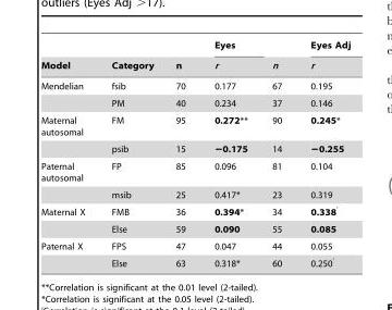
<table><thead><tr><td rowspan="2">Model</td><td rowspan="2">Category</td><td rowspan="2">n</td><td rowspan="2">Eyes r</td><td rowspan="2">n</td><td rowspan="2">Eyes Adj r</td></tr><tr></tr></thead><tbody><tr><td rowspan="2">Mendelian</td><td>fsib</td><td>70</td><td>0.177</td><td>67</td><td>0.195</td></tr><tr><td>PM</td><td>40</td><td>0.234</td><td>37</td><td>0.146</td></tr><tr><td rowspan="2">Maternal autosomal</td><td>FM</td><td>95</td><td>0.272**</td><td>90</td><td>0.245*</td></tr><tr><td>psib</td><td>15</td><td>−0.175</td><td>14</td><td>−0.255</td></tr><tr><td rowspan="2">Paternal autosomal</td><td>FP</td><td>85</td><td>0.096</td><td>81</td><td>0.104</td></tr><tr><td>msib</td><td>25</td><td>0.417*</td><td>23</td><td>0.319</td></tr><tr><td rowspan="2">Maternal X</td><td>FMB</td><td>36</td><td>0.394*</td><td>34</td><td>0.338’</td></tr><tr><td>Else</td><td>59</td><td>0.090</td><td>55</td><td>0.085</td></tr><tr><td rowspan="2">Paternal X</td><td>FPS</td><td>47</td><td>0.047</td><td>44</td><td>0.055</td></tr><tr><td>Else</td><td>63</td><td>0.318*</td><td>60</td><td>0.250’</td></tr></tbody></table>